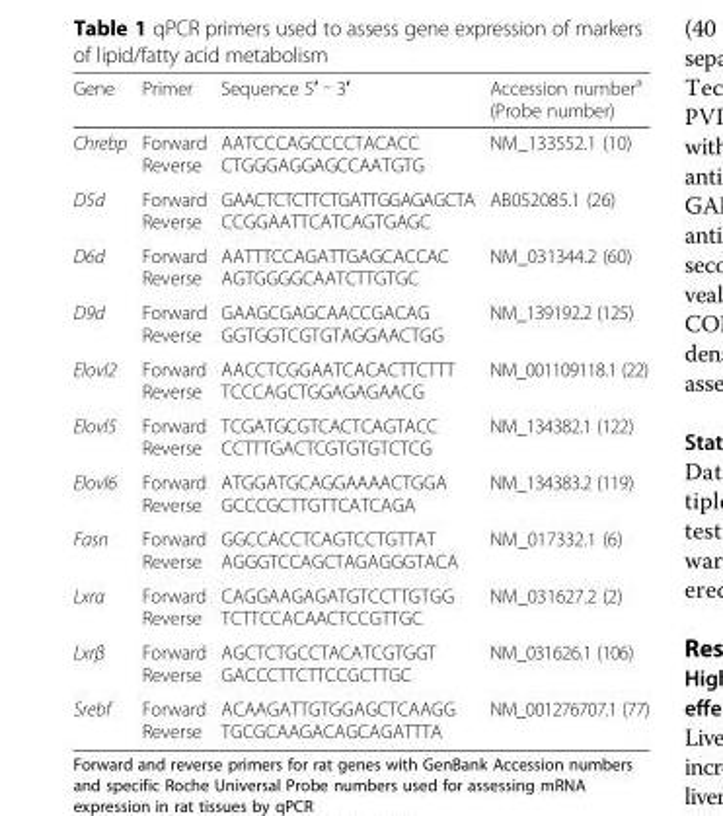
<table><thead><tr><td>Gene</td><td>Primer</td><td>Sequence 5′ <sup>_</sup> 3′</td><td>Accession number<sup>a</sup> (Probe number)</td></tr></thead><tbody><tr><td>Chrebp</td><td>Forward Reverse</td><td>AATCCCAGCCCCTACACC CTGGGAGGAGCCAATGTG</td><td>NM_133552.1 (10)</td></tr><tr><td>D5d</td><td>Forward Reverse</td><td>GAACTCTCTTCTGATTGGAGAGCTA CCGGAATTCATCAGTGAGC</td><td>AB052085.1 (26)</td></tr><tr><td>D6d</td><td>Forward Reverse</td><td>AATTTCCAGATTGAGCACCAC AGTGGGGCAATCTTGTGC</td><td>NM_031344.2 (60)</td></tr><tr><td>D9d</td><td>Forward Reverse</td><td>GAAGCGAGCAACCGACAG GGTGGTCGTGTAGGAACTGG</td><td>NM_139192.2 (125)</td></tr><tr><td>Elovl2</td><td>Forward Reverse</td><td>AACCTCGGAATCACACTTCTTT TCCCAGCTGGAGAGAACG</td><td>NM_001109118.1 (22)</td></tr><tr><td>Elovl5</td><td>Forward Reverse</td><td>TCGATGCGTCACTCAGTACC CCTTTGACTCGTGTGTCTCG</td><td>NM_134382.1 (122)</td></tr><tr><td>Elovl6</td><td>Forward Reverse</td><td>ATGGATGCAGGAAAACTGGA GCCCGCTTGTTCATCAGA</td><td>NM_134383.2 (119)</td></tr><tr><td>Fasn</td><td>Forward Reverse</td><td>GGCCACCTCAGTCCTGTTAT AGGGTCCAGCTAGAGGGTACA</td><td>NM_017332.1 (6)</td></tr><tr><td>Lxrα</td><td>Forward Reverse</td><td>CAGGAAGAGATGTCCTTGTGG TCTTCCACAACTCCGTTGC</td><td>NM_031627.2 (2)</td></tr><tr><td>Lxrβ</td><td>Forward Reverse</td><td>AGCTCTGCCTACATCGTGGT GACCCTTCTTCCGCTTGC</td><td>NM_031626.1 (106)</td></tr><tr><td>Srebf</td><td>Forward Reverse</td><td>ACAAGATTGTGGAGCTCAAGG TGCGCAAGACAGCAGATTTA</td><td>NM_001276707.1 (77)</td></tr></tbody></table>